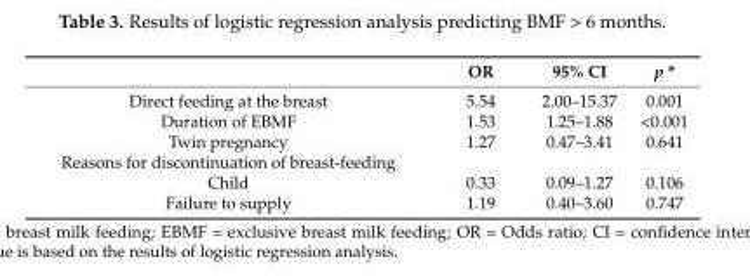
<table><thead><tr><td></td><td>OR</td><td>95% CI</td><td>p *</td></tr></thead><tbody><tr><td>Direct feeding at the breast</td><td>5.54</td><td>2.00–15.37</td><td>0.001</td></tr><tr><td>Duration of EBMF</td><td>1.53</td><td>1.25–1.88</td><td>&lt;0.001</td></tr><tr><td>Twin pregnancy</td><td>1.27</td><td>0.47–3.41</td><td>0.641</td></tr><tr><td colspan="4">Reasons for discontinuation of breast-feeding</td></tr><tr><td>Child</td><td>0.33</td><td>0.09–1.27</td><td>0.106</td></tr><tr><td>Failure to supply</td><td>1.19</td><td>0.40–3.60</td><td>0.747</td></tr></tbody></table>